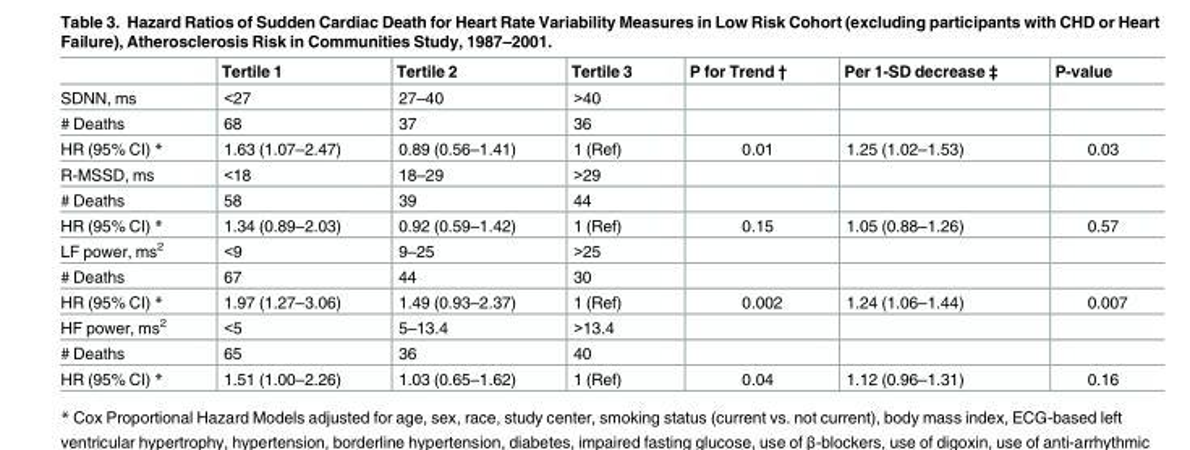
<table><thead><tr><td></td><td>Tertile 1</td><td>Tertile 2</td><td>Tertile 3</td><td>P for Trend †</td><td>Per 1-SD decrease ‡</td><td>P-value</td></tr></thead><tbody><tr><td>SDNN, ms</td><td>&lt;27</td><td>27–40</td><td>&gt;40</td><td></td><td></td><td></td></tr><tr><td># Deaths</td><td>68</td><td>37</td><td>36</td><td></td><td></td><td></td></tr><tr><td>HR (95% CI) *</td><td>1.63 (1.07–2.47)</td><td>0.89 (0.56–1.41)</td><td>1 (Ref)</td><td>0.01</td><td>1.25 (1.02–1.53)</td><td>0.03</td></tr><tr><td>R-MSSD, ms</td><td>&lt;18</td><td>18–29</td><td>&gt;29</td><td></td><td></td><td></td></tr><tr><td># Deaths</td><td>58</td><td>39</td><td>44</td><td></td><td></td><td></td></tr><tr><td>HR (95% CI) *</td><td>1.34 (0.89–2.03)</td><td>0.92 (0.59–1.42)</td><td>1 (Ref)</td><td>0.15</td><td>1.05 (0.88–1.26)</td><td>0.57</td></tr><tr><td>LF power, ms<sup>2</sup></td><td>&lt;9</td><td>9–25</td><td>&gt;25</td><td></td><td></td><td></td></tr><tr><td># Deaths</td><td>67</td><td>44</td><td>30</td><td></td><td></td><td></td></tr><tr><td>HR (95% CI) *</td><td>1.97 (1.27–3.06)</td><td>1.49 (0.93–2.37)</td><td>1 (Ref)</td><td>0.002</td><td>1.24 (1.06–1.44)</td><td>0.007</td></tr><tr><td>HF power, ms<sup>2</sup></td><td>&lt;5</td><td>5–13.4</td><td>&gt;13.4</td><td></td><td></td><td></td></tr><tr><td># Deaths</td><td>65</td><td>36</td><td>40</td><td></td><td></td><td></td></tr><tr><td>HR (95% CI) *</td><td>1.51 (1.00–2.26)</td><td>1.03 (0.65–1.62)</td><td>1 (Ref)</td><td>0.04</td><td>1.12 (0.96–1.31)</td><td>0.16</td></tr></tbody></table>